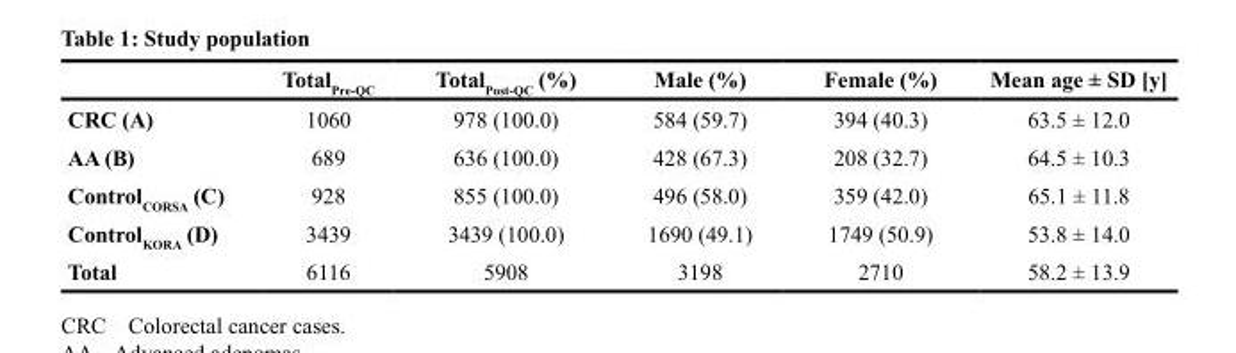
<table><thead><tr><td></td><td>Total<sub>Pre-QC</sub></td><td>Total<sub>Post-QC</sub> (%)</td><td>Male (%)</td><td>Female (%)</td><td>Mean age ± SD [y]</td></tr></thead><tbody><tr><td>CRC (A)</td><td>1060</td><td>978 (100.0)</td><td>584 (59.7)</td><td>394 (40.3)</td><td>63.5 ± 12.0</td></tr><tr><td>AA (B)</td><td>689</td><td>636 (100.0)</td><td>428 (67.3)</td><td>208 (32.7)</td><td>64.5 ± 10.3</td></tr><tr><td>Control<sub>CORSA</sub> (C)</td><td>928</td><td>855 (100.0)</td><td>496 (58.0)</td><td>359 (42.0)</td><td>65.1 ± 11.8</td></tr><tr><td>Control<sub>KORA</sub> (D)</td><td>3439</td><td>3439 (100.0)</td><td>1690 (49.1)</td><td>1749 (50.9)</td><td>53.8 ± 14.0</td></tr><tr><td>Total</td><td>6116</td><td>5908</td><td>3198</td><td>2710</td><td>58.2 ± 13.9</td></tr></tbody></table>